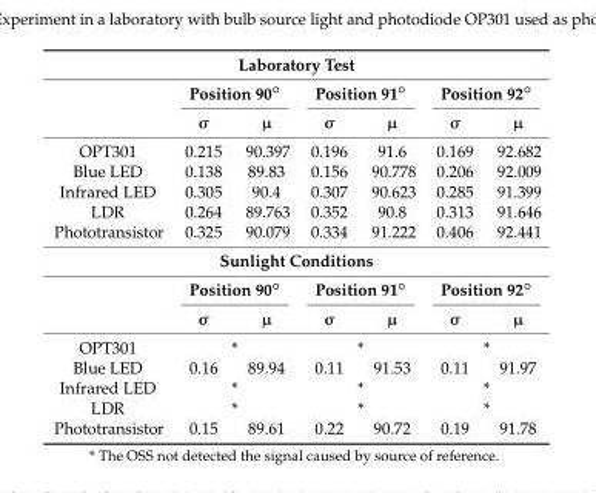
<table><tbody><tr><td colspan="7">Laboratory Test</td></tr><tr><td rowspan="2"></td><td colspan="2">Position 90◦</td><td colspan="2">Position 91◦</td><td colspan="2">Position 92◦</td></tr><tr><td>σ</td><td>µ</td><td>σ</td><td>µ</td><td>σ</td><td>µ</td></tr><tr><td>OPT301</td><td>0.215</td><td>90.397</td><td>0.196</td><td>91.6</td><td>0.169</td><td>92.682</td></tr><tr><td>Blue LED</td><td>0.138</td><td>89.83</td><td>0.156</td><td>90.778</td><td>0.206</td><td>92.009</td></tr><tr><td>Infrared LED</td><td>0.305</td><td>90.4</td><td>0.307</td><td>90.623</td><td>0.285</td><td>91.399</td></tr><tr><td>LDR</td><td>0.264</td><td>89.763</td><td>0.352</td><td>90.8</td><td>0.313</td><td>91.646</td></tr><tr><td>Phototransistor</td><td>0.325</td><td>90.079</td><td>0.334</td><td>91.222</td><td>0.406</td><td>92.441</td></tr><tr><td colspan="7">Sunlight Conditions</td></tr><tr><td rowspan="2"></td><td colspan="2">Position 90◦</td><td colspan="2">Position 91◦</td><td colspan="2">Position 92◦</td></tr><tr><td>σ</td><td>µ</td><td>σ</td><td>µ</td><td>σ</td><td>µ</td></tr><tr><td>OPT301</td><td colspan="2">*</td><td colspan="2">*</td><td colspan="2">*</td></tr><tr><td>Blue LED</td><td>0.16</td><td>89.94</td><td>0.11</td><td>91.53</td><td>0.11</td><td>91.97</td></tr><tr><td>Infrared LED</td><td colspan="2">*</td><td colspan="2">*</td><td colspan="2">*</td></tr><tr><td>LDR</td><td colspan="2">*</td><td colspan="2">*</td><td colspan="2">*</td></tr><tr><td>Phototransistor</td><td>0.15</td><td>89.61</td><td>0.22</td><td>90.72</td><td>0.19</td><td>91.78</td></tr></tbody></table>